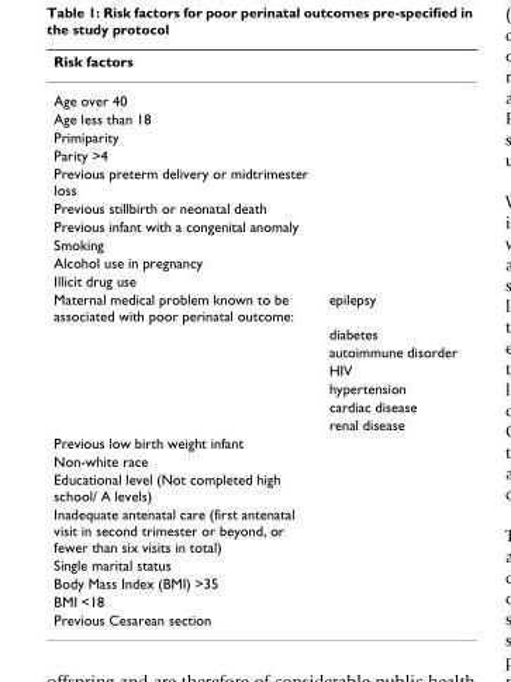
<table><thead><tr><td>Risk factors</td><td></td></tr></thead><tbody><tr><td colspan="2">Age over 40</td></tr><tr><td colspan="2">Age less than 18</td></tr><tr><td colspan="2">Primiparity</td></tr><tr><td colspan="2">Parity &gt;4</td></tr><tr><td colspan="2">Previous preterm delivery or midtrimester loss</td></tr><tr><td colspan="2">Previous stillbirth or neonatal death</td></tr><tr><td colspan="2">Previous infant with a congenital anomaly</td></tr><tr><td colspan="2">Smoking</td></tr><tr><td colspan="2">Alcohol use in pregnancy</td></tr><tr><td colspan="2">Illicit drug use</td></tr><tr><td rowspan="7">Maternal medical problem known to be associated with poor perinatal outcome:</td><td>epilepsy</td></tr><tr><td>diabetes</td></tr><tr><td>autoimmune disorder</td></tr><tr><td>HIV</td></tr><tr><td>hypertension</td></tr><tr><td>cardiac disease</td></tr><tr><td>renal disease</td></tr><tr><td colspan="2">Previous low birth weight infant</td></tr><tr><td colspan="2">Non-white race</td></tr><tr><td colspan="2">Educational level (Not completed high school/ A levels)</td></tr><tr><td colspan="2">Inadequate antenatal care (first antenatal visit in second trimester or beyond, or fewer than six visits in total)</td></tr><tr><td colspan="2">Single marital status</td></tr><tr><td colspan="2">Body Mass Index (BMI) &gt;35</td></tr><tr><td colspan="2">BMI &lt;18</td></tr><tr><td>Previous Cesarean section</td><td></td></tr></tbody></table>